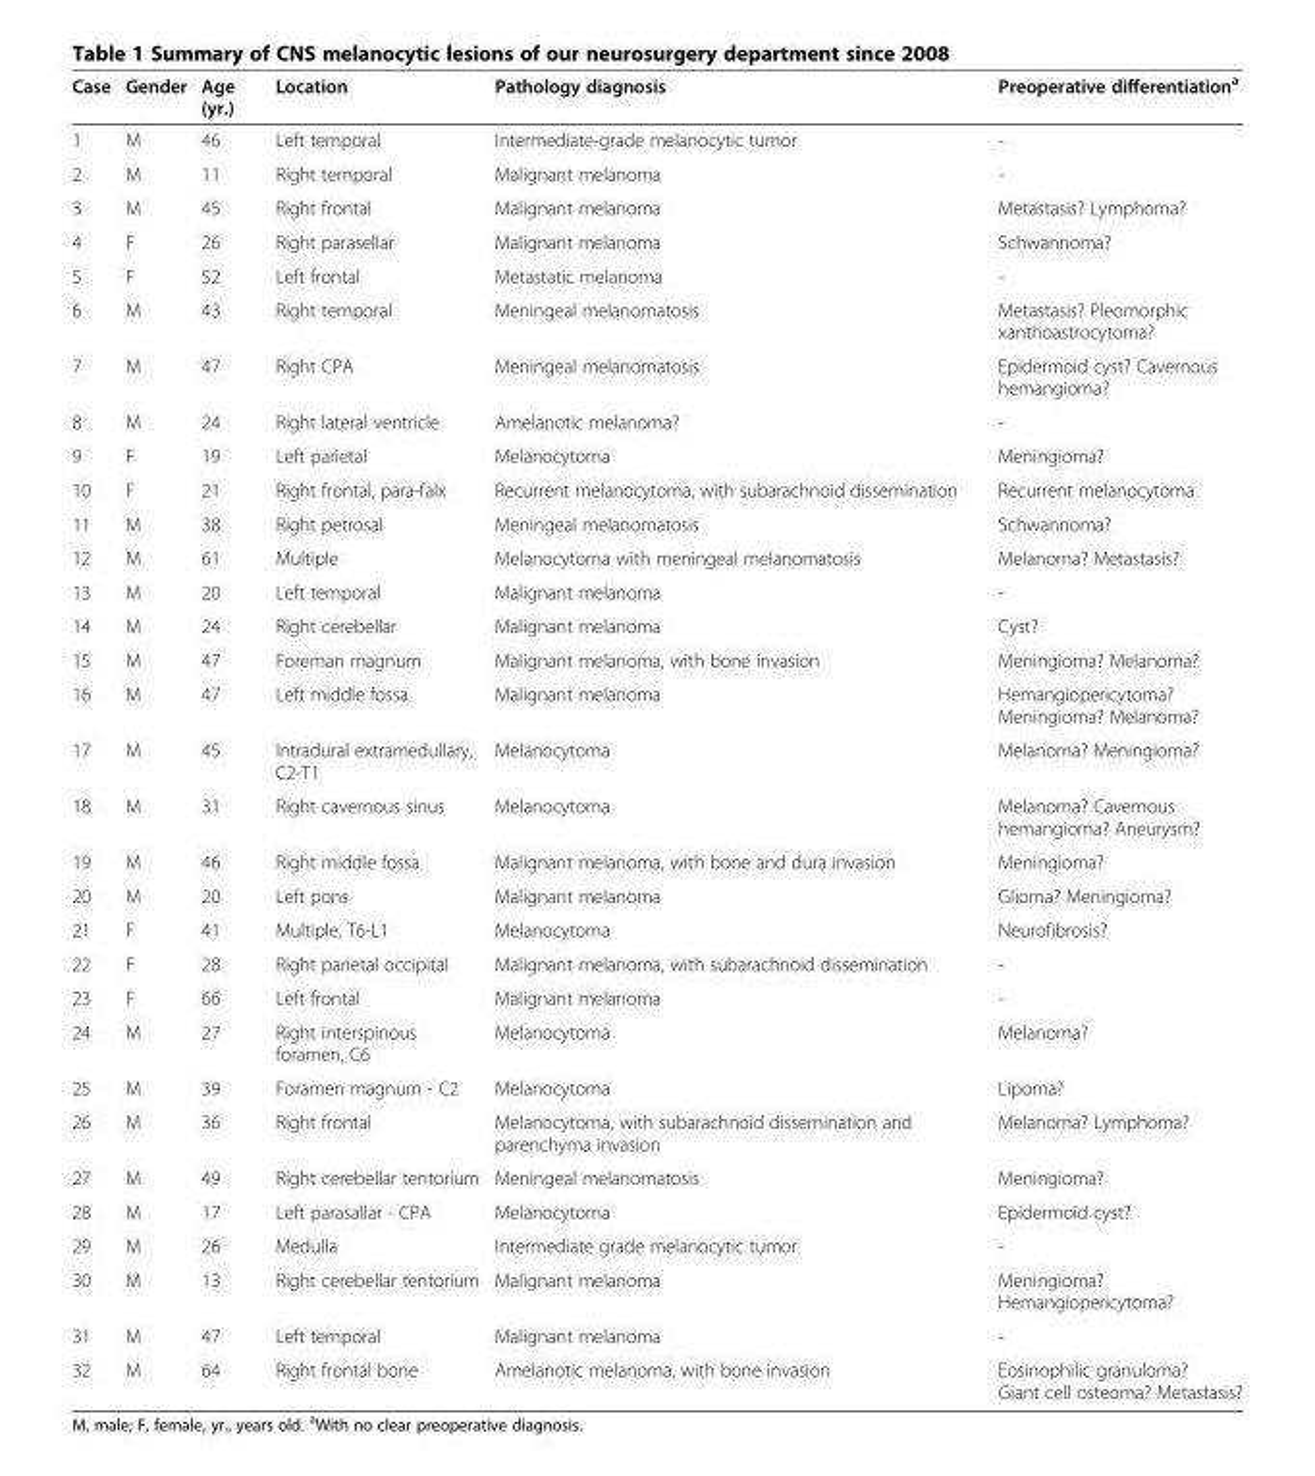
<table><thead><tr><td>Case</td><td>Gender</td><td>Age (yr.)</td><td>Location</td><td>Pathology diagnosis</td><td>Preoperative differentiation<sup>a</sup></td></tr></thead><tbody><tr><td>1</td><td>M</td><td>46</td><td>Left temporal</td><td>Intermediate-grade melanocytic tumor</td><td>-</td></tr><tr><td>2</td><td>M</td><td>11</td><td>Right temporal</td><td>Malignant melanoma</td><td>-</td></tr><tr><td>3</td><td>M</td><td>45</td><td>Right frontal</td><td>Malignant melanoma</td><td>Metastasis? Lymphoma?</td></tr><tr><td>4</td><td>F</td><td>26</td><td>Right parasellar</td><td>Malignant melanoma</td><td>Schwannoma?</td></tr><tr><td>5</td><td>F</td><td>52</td><td>Left frontal</td><td>Metastatic melanoma</td><td>-</td></tr><tr><td>6</td><td>M</td><td>43</td><td>Right temporal</td><td>Meningeal melanomatosis</td><td>Metastasis? Pleomorphic xanthoastrocytoma?</td></tr><tr><td>7</td><td>M</td><td>47</td><td>Right CPA</td><td>Meningeal melanomatosis</td><td>Epidermoid cyst? Cavernous hemangioma?</td></tr><tr><td>8</td><td>M</td><td>24</td><td>Right lateral ventricle</td><td>Amelanotic melanoma?</td><td>-</td></tr><tr><td>9</td><td>F</td><td>19</td><td>Left parietal</td><td>Melanocytoma</td><td>Meningioma?</td></tr><tr><td>10</td><td>F</td><td>21</td><td>Right frontal, para-falx</td><td>Recurrent melanocytoma, with subarachnoid dissemination</td><td>Recurrent melanocytoma</td></tr><tr><td>11</td><td>M</td><td>38</td><td>Right petrosal</td><td>Meningeal melanomatosis</td><td>Schwannoma?</td></tr><tr><td>12</td><td>M</td><td>61</td><td>Multiple</td><td>Melanocytoma with meningeal melanomatosis</td><td>Melanoma? Metastasis?</td></tr><tr><td>13</td><td>M</td><td>20</td><td>Left temporal</td><td>Malignant melanoma</td><td>-</td></tr><tr><td>14</td><td>M</td><td>24</td><td>Right cerebellar</td><td>Malignant melanoma</td><td>Cyst?</td></tr><tr><td>15</td><td>M</td><td>47</td><td>Foreman magnum</td><td>Malignant melanoma, with bone invasion</td><td>Meningioma? Melanoma?</td></tr><tr><td>16</td><td>M</td><td>47</td><td>Left middle fossa</td><td>Malignant melanoma</td><td>Hemangiopericytoma? Meningioma? Melanoma?</td></tr><tr><td>17</td><td>M</td><td>45</td><td>Intradural extramedullary, C2-T1</td><td>Melanocytoma</td><td>Melanoma? Meningioma?</td></tr><tr><td>18</td><td>M</td><td>31</td><td>Right cavernous sinus</td><td>Melanocytoma</td><td>Melanoma? Cavernous hemangioma? Aneurysm?</td></tr><tr><td>19</td><td>M</td><td>46</td><td>Right middle fossa</td><td>Malignant melanoma, with bone and dura invasion</td><td>Meningioma?</td></tr><tr><td>20</td><td>M</td><td>20</td><td>Left pons</td><td>Malignant melanoma</td><td>Glioma? Meningioma?</td></tr><tr><td>21</td><td>F</td><td>41</td><td>Multiple, T6-L1</td><td>Melanocytoma</td><td>Neurofibrosis?</td></tr><tr><td>22</td><td>F</td><td>28</td><td>Right parietal occipital</td><td>Malignant melanoma, with subarachnoid dissemination</td><td>-</td></tr><tr><td>23</td><td>F</td><td>66</td><td>Left frontal</td><td>Malignant melanoma</td><td>-</td></tr><tr><td>24</td><td>M</td><td>27</td><td>Right interspinous foramen, C6</td><td>Melanocytoma</td><td>Melanoma?</td></tr><tr><td>25</td><td>M</td><td>39</td><td>Foramen magnum - C2</td><td>Melanocytoma</td><td>Lipoma?</td></tr><tr><td>26</td><td>M</td><td>36</td><td>Right frontal</td><td>Melanocytoma, with subarachnoid dissemination and parenchyma invasion</td><td>Melanoma? Lymphoma?</td></tr><tr><td>27</td><td>M</td><td>49</td><td>Right cerebellar tentorium</td><td>Meningeal melanomatosis</td><td>Meningioma?</td></tr><tr><td>28</td><td>M</td><td>17</td><td>Left parasallar - CPA</td><td>Melanocytoma</td><td>Epidermoid cyst?</td></tr><tr><td>29</td><td>M</td><td>26</td><td>Medulla</td><td>Intermediate grade melanocytic tumor</td><td>-</td></tr><tr><td>30</td><td>M</td><td>13</td><td>Right cerebellar tentorium</td><td>Malignant melanoma</td><td>Meningioma? Hemangiopericytoma?</td></tr><tr><td>31</td><td>M</td><td>47</td><td>Left temporal</td><td>Malignant melanoma</td><td>-</td></tr><tr><td>32</td><td>M</td><td>64</td><td>Right frontal bone</td><td>Amelanotic melanoma, with bone invasion</td><td>Eosinophilic granuloma? Giant cell osteoma? Metastasis?</td></tr></tbody></table>